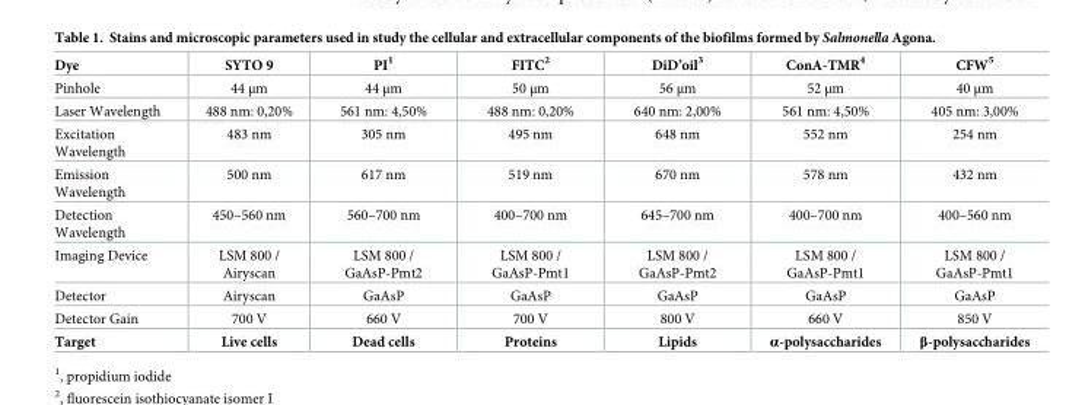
<table><thead><tr><td>Dye</td><td>SYTO 9</td><td>PI<sup>1</sup></td><td>FITC<sup>2</sup></td><td>DiD’oil<sup>3</sup></td><td>ConA-TMR<sup>4</sup></td><td>CFW<sup>5</sup></td></tr></thead><tbody><tr><td>Pinhole</td><td>44 μm</td><td>44 μm</td><td>50 μm</td><td>56 μm</td><td>52 μm</td><td>40 μm</td></tr><tr><td>Laser Wavelength</td><td>488 nm: 0,20%</td><td>561 nm: 4,50%</td><td>488 nm: 0,20%</td><td>640 nm: 2,00%</td><td>561 nm: 4,50%</td><td>405 nm: 3,00%</td></tr><tr><td>Excitation Wavelength</td><td>483 nm</td><td>305 nm</td><td>495 nm</td><td>648 nm</td><td>552 nm</td><td>254 nm</td></tr><tr><td>Emission Wavelength</td><td>500 nm</td><td>617 nm</td><td>519 nm</td><td>670 nm</td><td>578 nm</td><td>432 nm</td></tr><tr><td>Detection Wavelength</td><td>450–560 nm</td><td>560–700 nm</td><td>400–700 nm</td><td>645–700 nm</td><td>400–700 nm</td><td>400–560 nm</td></tr><tr><td>Imaging Device</td><td>LSM 800 / Airyscan</td><td>LSM 800 / GaAsP-Pmt2</td><td>LSM 800 / GaAsP-Pmt1</td><td>LSM 800 / GaAsP-Pmt2</td><td>LSM 800 / GaAsP-Pmt1</td><td>LSM 800 / GaAsP-Pmt1</td></tr><tr><td>Detector</td><td>Airyscan</td><td>GaAsP</td><td>GaAsP</td><td>GaAsP</td><td>GaAsP</td><td>GaAsP</td></tr><tr><td>Detector Gain</td><td>700 V</td><td>660 V</td><td>700 V</td><td>800 V</td><td>660 V</td><td>850 V</td></tr><tr><td>Target</td><td>Live cells</td><td>Dead cells</td><td>Proteins</td><td>Lipids</td><td>α-polysaccharides</td><td>β-polysaccharides</td></tr></tbody></table>